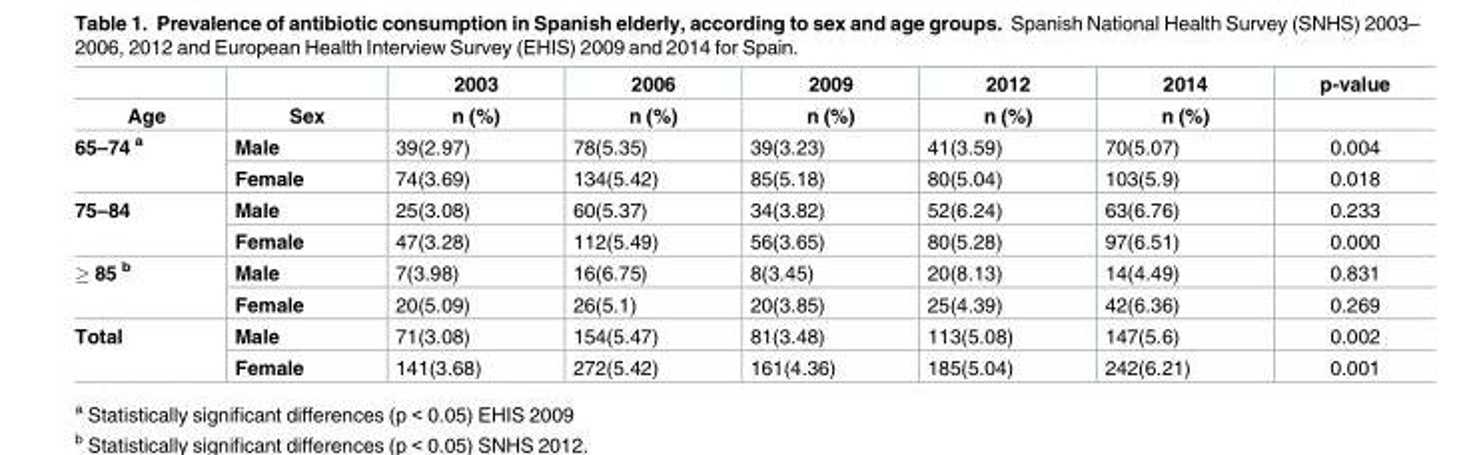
<table><thead><tr><td rowspan="2">Age</td><td rowspan="2">Sex</td><td rowspan="2">2003 n (%)</td><td rowspan="2">2006 n (%)</td><td rowspan="2">2009 n (%)</td><td rowspan="2">2012 n (%)</td><td rowspan="2">2014 n (%)</td><td rowspan="2">p-value</td></tr><tr></tr></thead><tbody><tr><td rowspan="2">65–74 <sup>a</sup></td><td>Male</td><td>39(2.97)</td><td>78(5.35)</td><td>39(3.23)</td><td>41(3.59)</td><td>70(5.07)</td><td>0.004</td></tr><tr><td>Female</td><td>74(3.69)</td><td>134(5.42)</td><td>85(5.18)</td><td>80(5.04)</td><td>103(5.9)</td><td>0.018</td></tr><tr><td rowspan="2">75–84</td><td>Male</td><td>25(3.08)</td><td>60(5.37)</td><td>34(3.82)</td><td>52(6.24)</td><td>63(6.76)</td><td>0.233</td></tr><tr><td>Female</td><td>47(3.28)</td><td>112(5.49)</td><td>56(3.65)</td><td>80(5.28)</td><td>97(6.51)</td><td>0.000</td></tr><tr><td rowspan="2">≥ 85 <sup>b</sup></td><td>Male</td><td>7(3.98)</td><td>16(6.75)</td><td>8(3.45)</td><td>20(8.13)</td><td>14(4.49)</td><td>0.831</td></tr><tr><td>Female</td><td>20(5.09)</td><td>26(5.1)</td><td>20(3.85)</td><td>25(4.39)</td><td>42(6.36)</td><td>0.269</td></tr><tr><td rowspan="2">Total</td><td>Male</td><td>71(3.08)</td><td>154(5.47)</td><td>81(3.48)</td><td>113(5.08)</td><td>147(5.6)</td><td>0.002</td></tr><tr><td>Female</td><td>141(3.68)</td><td>272(5.42)</td><td>161(4.36)</td><td>185(5.04)</td><td>242(6.21)</td><td>0.001</td></tr></tbody></table>